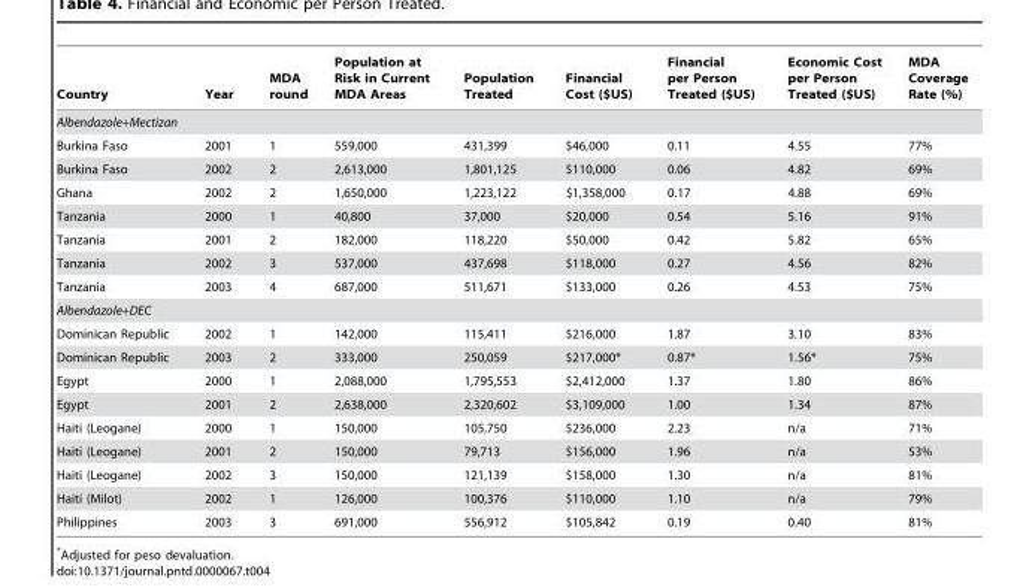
<table><thead><tr><td>Country</td><td>Year</td><td>MDA round</td><td>Population at Risk in Current MDA Areas</td><td>Population Treated</td><td>Financial Cost ($US)</td><td>Financial per Person Treated ($US)</td><td>Economic Cost per Person Treated ($US)</td><td>MDA Coverage Rate (%)</td></tr></thead><tbody><tr><td colspan="9">Albendazole+Mectizan</td></tr><tr><td>Burkina Faso</td><td>2001</td><td>1</td><td>559,000</td><td>431,399</td><td>$46,000</td><td>0.11</td><td>4.55</td><td>77%</td></tr><tr><td>Burkina Faso</td><td>2002</td><td>2</td><td>2,613,000</td><td>1,801,125</td><td>$110,000</td><td>0.06</td><td>4.82</td><td>69%</td></tr><tr><td>Ghana</td><td>2002</td><td>2</td><td>1,650,000</td><td>1,223,122</td><td>$1,358,000</td><td>0.17</td><td>4.88</td><td>69%</td></tr><tr><td>Tanzania</td><td>2000</td><td>1</td><td>40,800</td><td>37,000</td><td>$20,000</td><td>0.54</td><td>5.16</td><td>91%</td></tr><tr><td>Tanzania</td><td>2001</td><td>2</td><td>182,000</td><td>118,220</td><td>$50,000</td><td>0.42</td><td>5.82</td><td>65%</td></tr><tr><td>Tanzania</td><td>2002</td><td>3</td><td>537,000</td><td>437,698</td><td>$118,000</td><td>0.27</td><td>4.56</td><td>82%</td></tr><tr><td>Tanzania</td><td>2003</td><td>4</td><td>687,000</td><td>511,671</td><td>$133,000</td><td>0.26</td><td>4.53</td><td>75%</td></tr><tr><td colspan="9">Albendazole+DEC</td></tr><tr><td>Dominican Republic</td><td>2002</td><td>1</td><td>142,000</td><td>115,411</td><td>$216,000</td><td>1.87</td><td>3.10</td><td>83%</td></tr><tr><td>Dominican Republic</td><td>2003</td><td>2</td><td>333,000</td><td>250,059</td><td>$217,000*</td><td>0.87*</td><td>1.56*</td><td>75%</td></tr><tr><td>Egypt</td><td>2000</td><td>1</td><td>2,088,000</td><td>1,795,553</td><td>$2,412,000</td><td>1.37</td><td>1.80</td><td>86%</td></tr><tr><td>Egypt</td><td>2001</td><td>2</td><td>2,638,000</td><td>2,320,602</td><td>$3,109,000</td><td>1.00</td><td>1.34</td><td>87%</td></tr><tr><td>Haiti (Leogane)</td><td>2000</td><td>1</td><td>150,000</td><td>105,750</td><td>$236,000</td><td>2.23</td><td>n/a</td><td>71%</td></tr><tr><td>Haiti (Leogane)</td><td>2001</td><td>2</td><td>150,000</td><td>79,713</td><td>$156,000</td><td>1.96</td><td>n/a</td><td>53%</td></tr><tr><td>Haiti (Leogane)</td><td>2002</td><td>3</td><td>150,000</td><td>121,139</td><td>$158,000</td><td>1.30</td><td>n/a</td><td>81%</td></tr><tr><td>Haiti (Milot)</td><td>2002</td><td>1</td><td>126,000</td><td>100,376</td><td>$110,000</td><td>1.10</td><td>n/a</td><td>79%</td></tr><tr><td>Philippines</td><td>2003</td><td>3</td><td>691,000</td><td>556,912</td><td>$105,842</td><td>0.19</td><td>0.40</td><td>81%</td></tr></tbody></table>